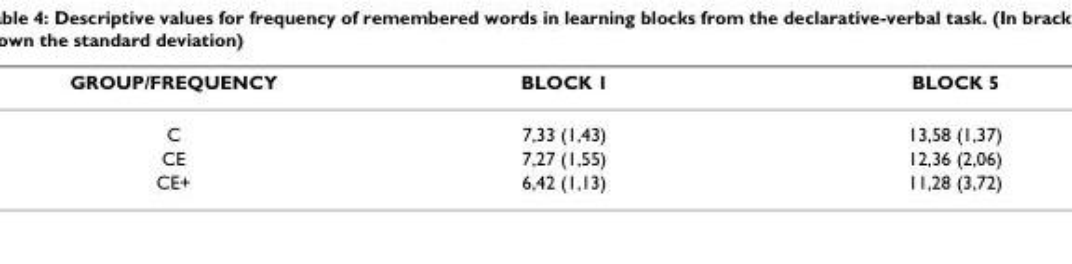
<table><thead><tr><td>GROUP/FREQUENCY</td><td>BLOCK 1</td><td>BLOCK 5</td></tr></thead><tbody><tr><td>C</td><td>7,33 (1,43)</td><td>13,58 (1,37)</td></tr><tr><td>CE</td><td>7,27 (1,55)</td><td>12,36 (2,06)</td></tr><tr><td>CE+</td><td>6,42 (1,13)</td><td>11,28 (3,72)</td></tr></tbody></table>